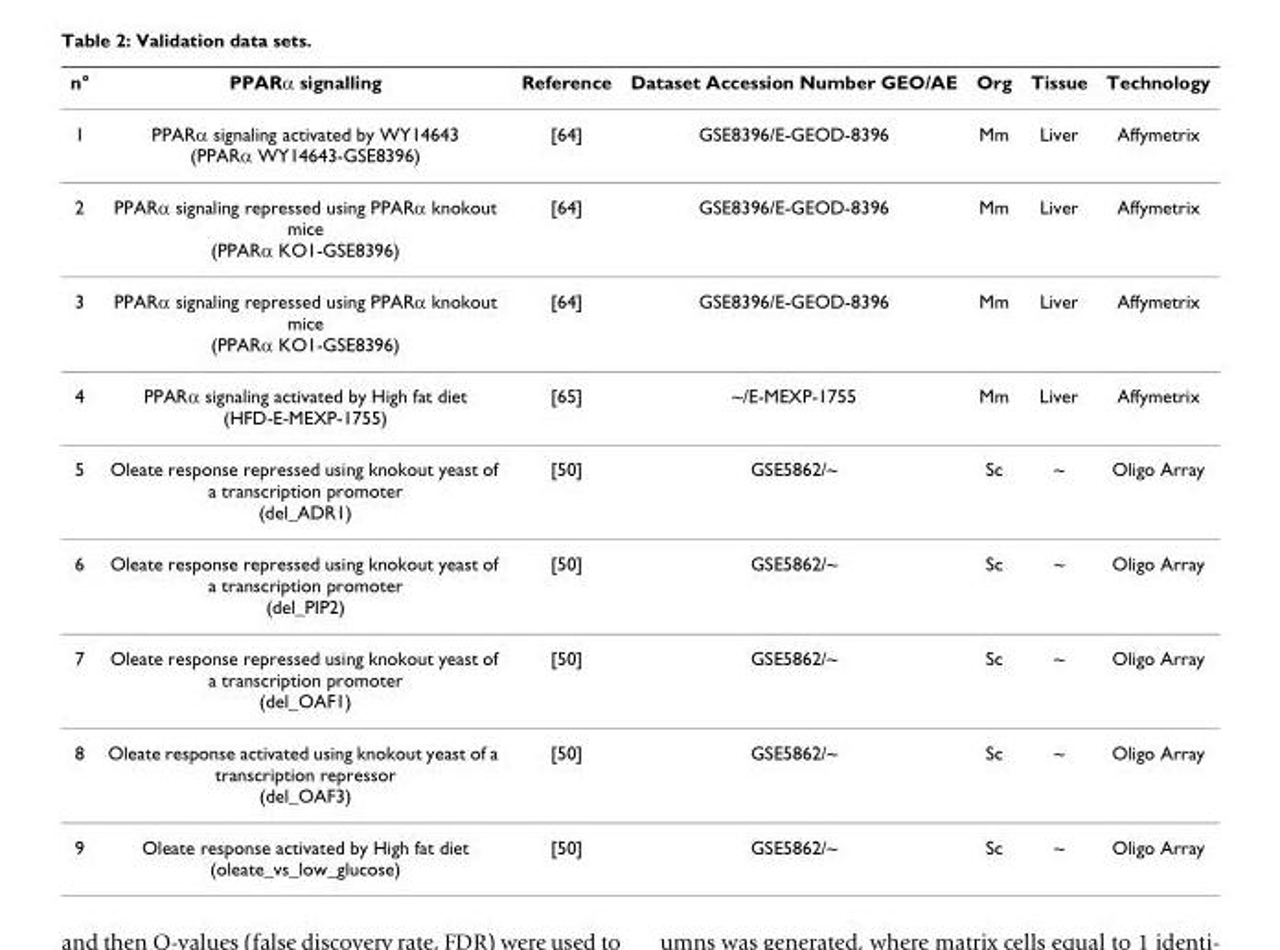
<table><thead><tr><td>n°</td><td>PPARα signalling</td><td>Reference</td><td>Dataset Accession Number GEO/AE</td><td>Org</td><td>Tissue</td><td>Technology</td></tr></thead><tbody><tr><td>1</td><td>PPARα signaling activated by WY14643 (PPARα WY14643-GSE8396)</td><td>[64]</td><td>GSE8396/E-GEOD-8396</td><td>Mm</td><td>Liver</td><td>Affymetrix</td></tr><tr><td>2</td><td>PPARα signaling repressed using PPARα knokout mice (PPARα KO1-GSE8396)</td><td>[64]</td><td>GSE8396/E-GEOD-8396</td><td>Mm</td><td>Liver</td><td>Affymetrix</td></tr><tr><td>3</td><td>PPARα signaling repressed using PPARα knokout mice (PPARα KO1-GSE8396)</td><td>[64]</td><td>GSE8396/E-GEOD-8396</td><td>Mm</td><td>Liver</td><td>Affymetrix</td></tr><tr><td>4</td><td>PPARα signaling activated by High fat diet (HFD-E-MEXP-1755)</td><td>[65]</td><td>~/E-MEXP-1755</td><td>Mm</td><td>Liver</td><td>Affymetrix</td></tr><tr><td>5</td><td>Oleate response repressed using knokout yeast of a transcription promoter (del_ADR1)</td><td>[50]</td><td>GSE5862/~</td><td>Sc</td><td>~</td><td>Oligo Array</td></tr><tr><td>6</td><td>Oleate response repressed using knokout yeast of a transcription promoter (del_PIP2)</td><td>[50]</td><td>GSE5862/~</td><td>Sc</td><td>~</td><td>Oligo Array</td></tr><tr><td>7</td><td>Oleate response repressed using knokout yeast of a transcription promoter (del_OAF1)</td><td>[50]</td><td>GSE5862/~</td><td>Sc</td><td>~</td><td>Oligo Array</td></tr><tr><td>8</td><td>Oleate response activated using knokout yeast of a transcription repressor (del_OAF3)</td><td>[50]</td><td>GSE5862/~</td><td>Sc</td><td>~</td><td>Oligo Array</td></tr><tr><td>9</td><td>Oleate response activated by High fat diet (oleate_vs_low_glucose)</td><td>[50]</td><td>GSE5862/~</td><td>Sc</td><td>~</td><td>Oligo Array</td></tr></tbody></table>